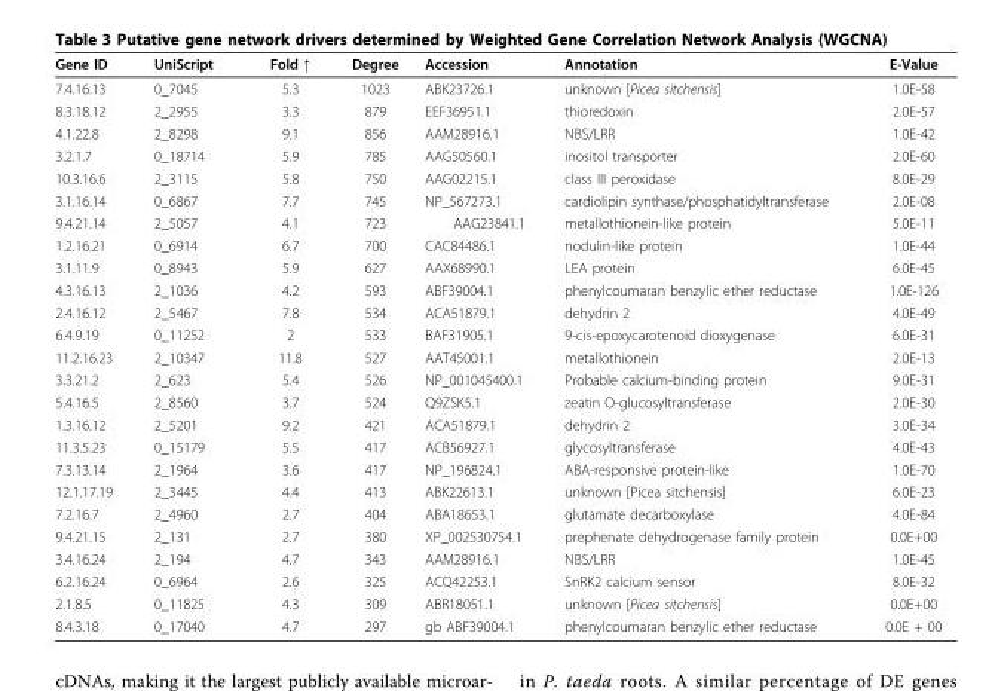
<table><thead><tr><td>Gene ID</td><td>UniScript</td><td>Fold ↑</td><td>Degree</td><td>Accession</td><td>Annotation</td><td>E-Value</td></tr></thead><tbody><tr><td>7.4.16.13</td><td>0_7045</td><td>5.3</td><td>1023</td><td>ABK23726.1</td><td>unknown [Picea sitchensis]</td><td>1.0E-58</td></tr><tr><td>8.3.18.12</td><td>2_2955</td><td>3.3</td><td>879</td><td>EEF36951.1</td><td>thioredoxin</td><td>2.0E-57</td></tr><tr><td>4.1.22.8</td><td>2_8298</td><td>9.1</td><td>856</td><td>AAM28916.1</td><td>NBS/LRR</td><td>1.0E-42</td></tr><tr><td>3.2.1.7</td><td>0_18714</td><td>5.9</td><td>785</td><td>AAG50560.1</td><td>inositol transporter</td><td>2.0E-60</td></tr><tr><td>10.3.16.6</td><td>2_3115</td><td>5.8</td><td>750</td><td>AAG02215.1</td><td>class III peroxidase</td><td>8.0E-29</td></tr><tr><td>3.1.16.14</td><td>0_6867</td><td>7.7</td><td>745</td><td>NP_567273.1</td><td>cardiolipin synthase/phosphatidyltransferase</td><td>2.0E-08</td></tr><tr><td>9.4.21.14</td><td>2_5057</td><td>4.1</td><td>723</td><td>AAG23841.1</td><td>metallothionein-like protein</td><td>5.0E-11</td></tr><tr><td>1.2.16.21</td><td>0_6914</td><td>6.7</td><td>700</td><td>CAC84486.1</td><td>nodulin-like protein</td><td>1.0E-44</td></tr><tr><td>3.1.11.9</td><td>0_8943</td><td>5.9</td><td>627</td><td>AAX68990.1</td><td>LEA protein</td><td>6.0E-45</td></tr><tr><td>4.3.16.13</td><td>2_1036</td><td>4.2</td><td>593</td><td>ABF39004.1</td><td>phenylcoumaran benzylic ether reductase</td><td>1.0E-126</td></tr><tr><td>2.4.16.12</td><td>2_5467</td><td>7.8</td><td>534</td><td>ACA51879.1</td><td>dehydrin 2</td><td>4.0E-49</td></tr><tr><td>6.4.9.19</td><td>0_11252</td><td>2</td><td>533</td><td>BAF31905.1</td><td>9-cis-epoxycarotenoid dioxygenase</td><td>6.0E-31</td></tr><tr><td>11.2.16.23</td><td>2_10347</td><td>11.8</td><td>527</td><td>AAT45001.1</td><td>metallothionein</td><td>2.0E-13</td></tr><tr><td>3.3.21.2</td><td>2_623</td><td>5.4</td><td>526</td><td>NP_001045400.1</td><td>Probable calcium-binding protein</td><td>9.0E-31</td></tr><tr><td>5.4.16.5</td><td>2_8560</td><td>3.7</td><td>524</td><td>Q9ZSK5.1</td><td>zeatin O-glucosyltransferase</td><td>2.0E-30</td></tr><tr><td>1.3.16.12</td><td>2_5201</td><td>9.2</td><td>421</td><td>ACA51879.1</td><td>dehydrin 2</td><td>3.0E-34</td></tr><tr><td>11.3.5.23</td><td>0_15179</td><td>5.5</td><td>417</td><td>ACB56927.1</td><td>glycosyltransferase</td><td>4.0E-43</td></tr><tr><td>7.3.13.14</td><td>2_1964</td><td>3.6</td><td>417</td><td>NP_196824.1</td><td>ABA-responsive protein-like</td><td>1.0E-70</td></tr><tr><td>12.1.17.19</td><td>2_3445</td><td>4.4</td><td>413</td><td>ABK22613.1</td><td>unknown [Picea sitchensis]</td><td>6.0E-23</td></tr><tr><td>7.2.16.7</td><td>2_4960</td><td>2.7</td><td>404</td><td>ABA18653.1</td><td>glutamate decarboxylase</td><td>4.0E-84</td></tr><tr><td>9.4.21.15</td><td>2_131</td><td>2.7</td><td>380</td><td>XP_002530754.1</td><td>prephenate dehydrogenase family protein</td><td>0.0E+00</td></tr><tr><td>3.4.16.24</td><td>2_194</td><td>4.7</td><td>343</td><td>AAM28916.1</td><td>NBS/LRR</td><td>1.0E-45</td></tr><tr><td>6.2.16.24</td><td>0_6964</td><td>2.6</td><td>325</td><td>ACQ42253.1</td><td>SnRK2 calcium sensor</td><td>8.0E-32</td></tr><tr><td>2.1.8.5</td><td>0_11825</td><td>4.3</td><td>309</td><td>ABR18051.1</td><td>unknown [Picea sitchensis]</td><td>0.0E+00</td></tr><tr><td>8.4.3.18</td><td>0_17040</td><td>4.7</td><td>297</td><td>gb ABF39004.1</td><td>phenylcoumaran benzylic ether reductase</td><td>0.0E + 00</td></tr></tbody></table>